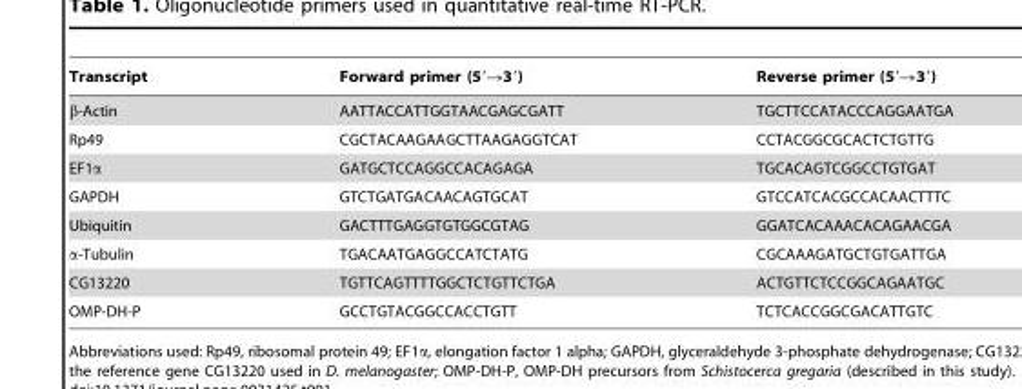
<table><thead><tr><td>Transcript</td><td>Forward primer (5′→3′)</td><td>Reverse primer (5′→3′)</td></tr></thead><tbody><tr><td>β-Actin</td><td>AATTACCATTGGTAACGAGCGATT</td><td>TGCTTCCATACCCAGGAATGA</td></tr><tr><td>Rp49</td><td>CGCTACAAGAAGCTTAAGAGGTCAT</td><td>CCTACGGCGCACTCTGTTG</td></tr><tr><td>EF1α</td><td>GATGCTCCAGGCCACAGAGA</td><td>TGCACAGTCGGCCTGTGAT</td></tr><tr><td>GAPDH</td><td>GTCTGATGACAACAGTGCAT</td><td>GTCCATCACGCCACAACTTTC</td></tr><tr><td>Ubiquitin</td><td>GACTTTGAGGTGTGGCGTAG</td><td>GGATCACAAACACAGAACGA</td></tr><tr><td>α-Tubulin</td><td>TGACAATGAGGCCATCTATG</td><td>CGCAAAGATGCTGTGATTGA</td></tr><tr><td>CG13220</td><td>TGTTCAGTTTTGGCTCTGTTCTGA</td><td>ACTGTTCTCCGGCAGAATGC</td></tr><tr><td>OMP-DH-P</td><td>GCCTGTACGGCCACCTGTT</td><td>TCTCACCGGCGACATTGTC</td></tr></tbody></table>